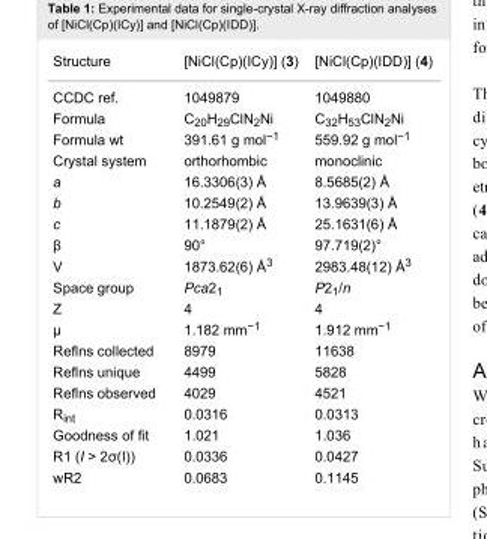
<table><tbody><tr><td>Structure</td><td>[NiCl(Cp)(ICy)] (3)</td><td>[NiCl(Cp)(IDD)] (4)</td></tr><tr><td>CCDC ref.</td><td>1049879</td><td>1049880</td></tr><tr><td>Formula</td><td>C<sub>20</sub>H<sub>29</sub>ClN<sub>2</sub>Ni</td><td>C<sub>32</sub>H<sub>53</sub>ClN<sub>2</sub>Ni</td></tr><tr><td>Formula wt</td><td>391.61 g mol<sup>−1</sup></td><td>559.92 g mol<sup>−1</sup></td></tr><tr><td>Crystal system</td><td>orthorhombic</td><td>monoclinic</td></tr><tr><td>a</td><td>16.3306(3) Å</td><td>8.5685(2) Å</td></tr><tr><td>b</td><td>10.2549(2) Å</td><td>13.9639(3) Å</td></tr><tr><td>c</td><td>11.1879(2) Å</td><td>25.1631(6) Å</td></tr><tr><td>β</td><td>90°</td><td>97.719(2)°</td></tr><tr><td>V</td><td>1873.62(6) Å<sup>3</sup></td><td>2983.48(12) Å<sup>3</sup></td></tr><tr><td>Space group</td><td>Pca2<sub>1</sub></td><td>P2<sub>1</sub>/n</td></tr><tr><td>Z</td><td>4</td><td>4</td></tr><tr><td>μ</td><td>1.182 mm<sup>−1</sup></td><td>1.912 mm<sup>−1</sup></td></tr><tr><td>Reflns collected</td><td>8979</td><td>11638</td></tr><tr><td>Reflns unique</td><td>4499</td><td>5828</td></tr><tr><td>Reflns observed</td><td>4029</td><td>4521</td></tr><tr><td>R<sub>int</sub></td><td>0.0316</td><td>0.0313</td></tr><tr><td>Goodness of fit</td><td>1.021</td><td>1.036</td></tr><tr><td>R1 (I &gt; 2σ(I))</td><td>0.0336</td><td>0.0427</td></tr><tr><td>wR2</td><td>0.0683</td><td>0.1145</td></tr></tbody></table>